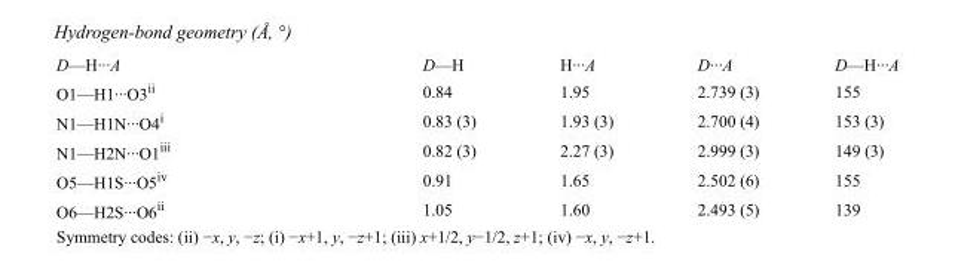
<table><tbody><tr><td>D—H···A</td><td>D—H</td><td>H···A</td><td>D···A</td><td>D—H···A</td></tr><tr><td>O1—H1···O3<sup>ii</sup></td><td>0.84</td><td>1.95</td><td>2.739 (3)</td><td>155</td></tr><tr><td>N1—H1N···O4<sup>i</sup></td><td>0.83 (3)</td><td>1.93 (3)</td><td>2.700 (4)</td><td>153 (3)</td></tr><tr><td>N1—H2N···O1<sup>iii</sup></td><td>0.82 (3)</td><td>2.27 (3)</td><td>2.999 (3)</td><td>149 (3)</td></tr><tr><td>O5—H1S···O5<sup>iv</sup></td><td>0.91</td><td>1.65</td><td>2.502 (6)</td><td>155</td></tr><tr><td>O6—H2S···O6<sup>ii</sup></td><td>1.05</td><td>1.60</td><td>2.493 (5)</td><td>139</td></tr></tbody></table>